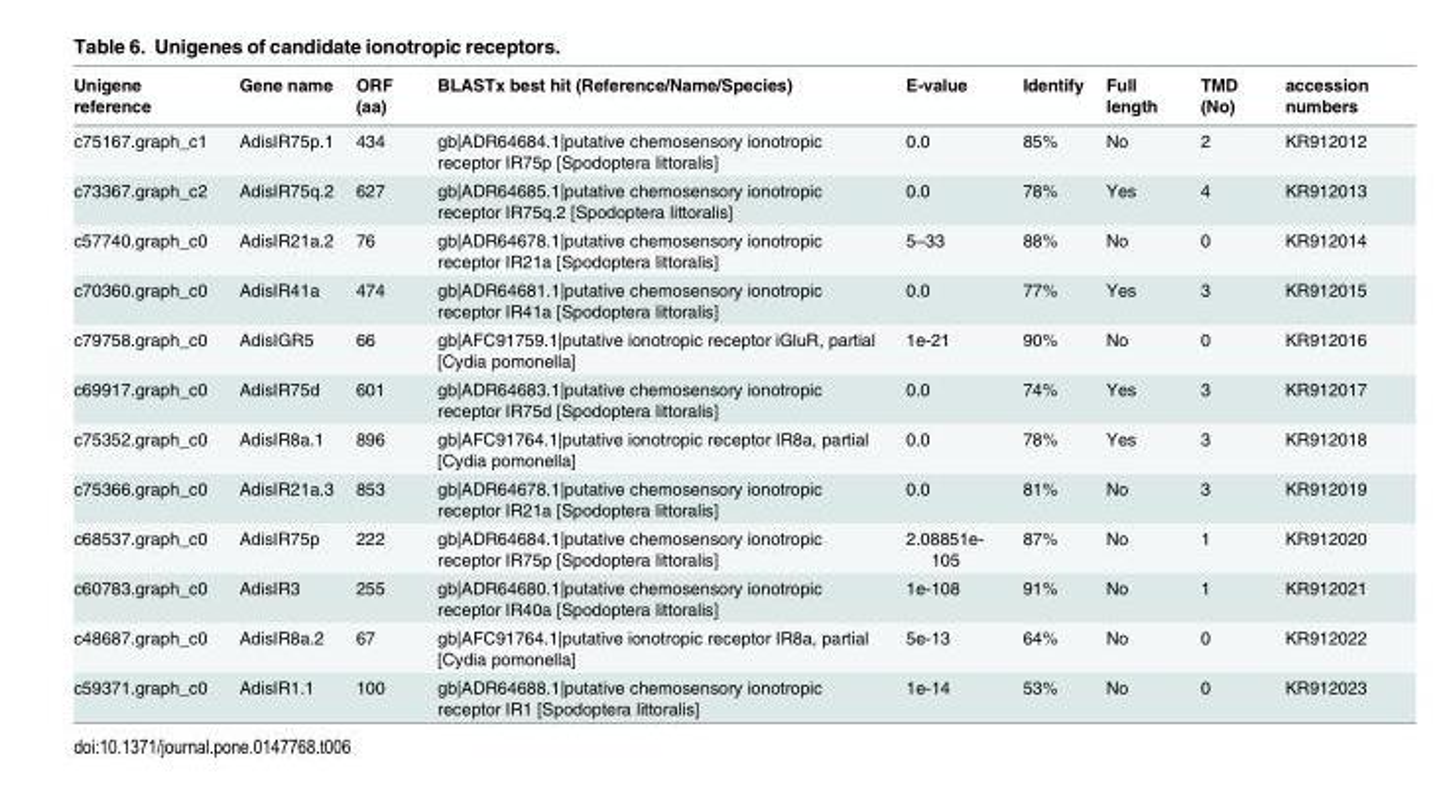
<table><thead><tr><td>Unigene reference</td><td>Gene name</td><td>ORF (aa)</td><td>BLASTx best hit (Reference/Name/Species)</td><td>E-value</td><td>Identify</td><td>Full length</td><td>TMD (No)</td><td>accession numbers</td></tr></thead><tbody><tr><td>c75167.graph_c1</td><td>AdisIR75p.1</td><td>434</td><td>gb|ADR64684.1|putative chemosensory ionotropic receptor IR75p [Spodoptera littoralis]</td><td>0.0</td><td>85%</td><td>No</td><td>2</td><td>KR912012</td></tr><tr><td>c73367.graph_c2</td><td>AdisIR75q.2</td><td>627</td><td>gb|ADR64685.1|putative chemosensory ionotropic receptor IR75q.2 [Spodoptera littoralis]</td><td>0.0</td><td>78%</td><td>Yes</td><td>4</td><td>KR912013</td></tr><tr><td>c57740.graph_c0</td><td>AdisIR21a.2</td><td>76</td><td>gb|ADR64678.1|putative chemosensory ionotropic receptor IR21a [Spodoptera littoralis]</td><td>5–33</td><td>88%</td><td>No</td><td>0</td><td>KR912014</td></tr><tr><td>c70360.graph_c0</td><td>AdisIR41a</td><td>474</td><td>gb|ADR64681.1|putative chemosensory ionotropic receptor IR41a [Spodoptera littoralis]</td><td>0.0</td><td>77%</td><td>Yes</td><td>3</td><td>KR912015</td></tr><tr><td>c79758.graph_c0</td><td>AdisIGR5</td><td>66</td><td>gb|AFC91759.1|putative ionotropic receptor iGluR, partial [Cydia pomonella]</td><td>1e-21</td><td>90%</td><td>No</td><td>0</td><td>KR912016</td></tr><tr><td>c69917.graph_c0</td><td>AdisIR75d</td><td>601</td><td>gb|ADR64683.1|putative chemosensory ionotropic receptor IR75d [Spodoptera littoralis]</td><td>0.0</td><td>74%</td><td>Yes</td><td>3</td><td>KR912017</td></tr><tr><td>c75352.graph_c0</td><td>AdisIR8a.1</td><td>896</td><td>gb|AFC91764.1|putative ionotropic receptor IR8a, partial [Cydia pomonella]</td><td>0.0</td><td>78%</td><td>Yes</td><td>3</td><td>KR912018</td></tr><tr><td>c75366.graph_c0</td><td>AdisIR21a.3</td><td>853</td><td>gb|ADR64678.1|putative chemosensory ionotropic receptor IR21a [Spodoptera littoralis]</td><td>0.0</td><td>81%</td><td>No</td><td>3</td><td>KR912019</td></tr><tr><td>c68537.graph_c0</td><td>AdisIR75p</td><td>222</td><td>gb|ADR64684.1|putative chemosensory ionotropic receptor IR75p [Spodoptera littoralis]</td><td>2.08851e- 105</td><td>87%</td><td>No</td><td>1</td><td>KR912020</td></tr><tr><td>c60783.graph_c0</td><td>AdisIR3</td><td>255</td><td>gb|ADR64680.1|putative chemosensory ionotropic receptor IR40a [Spodoptera littoralis]</td><td>1e-108</td><td>91%</td><td>No</td><td>1</td><td>KR912021</td></tr><tr><td>c48687.graph_c0</td><td>AdisIR8a.2</td><td>67</td><td>gb|AFC91764.1|putative ionotropic receptor IR8a, partial [Cydia pomonella]</td><td>5e-13</td><td>64%</td><td>No</td><td>0</td><td>KR912022</td></tr><tr><td>c59371.graph_c0</td><td>AdisIR1.1</td><td>100</td><td>gb|ADR64688.1|putative chemosensory ionotropic receptor IR1 [Spodoptera littoralis]</td><td>1e-14</td><td>53%</td><td>No</td><td>0</td><td>KR912023</td></tr></tbody></table>